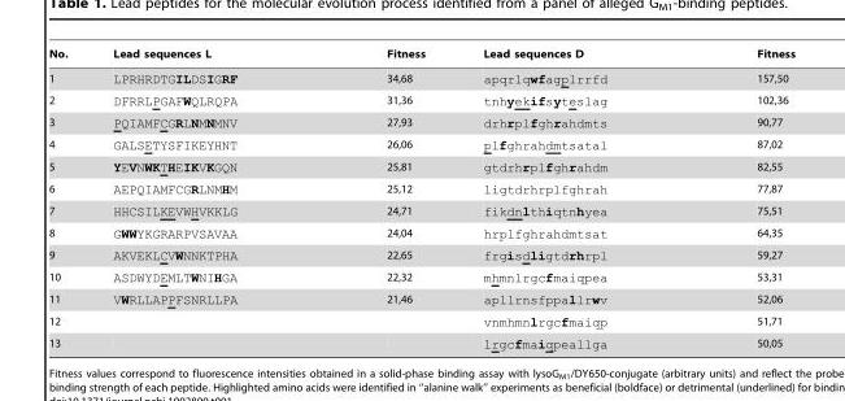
<table><thead><tr><td>No.</td><td>Lead sequences L</td><td>Fitness</td><td>Lead sequences D</td><td>Fitness</td></tr></thead><tbody><tr><td>1</td><td>LPRHRDTGILDSIGRF</td><td>34,68</td><td>apqrlqwfagplrrfd</td><td>157,50</td></tr><tr><td>2</td><td>DFRRLPGAFWQLRQPA</td><td>31,36</td><td>tnhyekifsyteslag</td><td>102,36</td></tr><tr><td>3</td><td>PQIAMFCGRLNMNMNV</td><td>27,93</td><td>drhrplfghrahdmts</td><td>90,77</td></tr><tr><td>4</td><td>GALSETYSFIKEYHNT</td><td>26,06</td><td>plfghrahdmtsatal</td><td>87,02</td></tr><tr><td>5</td><td>YEVNWKTHEIKVKGQN</td><td>25,81</td><td>gtdrhrplfghrahdm</td><td>82,55</td></tr><tr><td>6</td><td>AEPQIAMFCGRLNMHM</td><td>25,12</td><td>ligtdrhrplfghrah</td><td>77,87</td></tr><tr><td>7</td><td>HHCSILKEVWHVKKLG</td><td>24,71</td><td>fikdnlthiqtnhyea</td><td>75,51</td></tr><tr><td>8</td><td>GWWYKGRARPVSAVAA</td><td>24,04</td><td>hrplfghrahdmtsat</td><td>64,35</td></tr><tr><td>9</td><td>AKVEKLCVWNNKTPHA</td><td>22,65</td><td>frgisdligtdrhrpl</td><td>59,27</td></tr><tr><td>10</td><td>ASDWYDEMLTWNIHGA</td><td>22,32</td><td>mhmnlrgcfmaiqpea</td><td>53,31</td></tr><tr><td>11</td><td>VWRLLAPPFSNRLLPA</td><td>21,46</td><td>apllrnsfppallrwv</td><td>52,06</td></tr><tr><td>12</td><td></td><td></td><td>vnmhmnlrgcfmaiqp</td><td>51,71</td></tr><tr><td>13</td><td></td><td></td><td>lrgcfmaiqpeallga</td><td>50,05</td></tr></tbody></table>